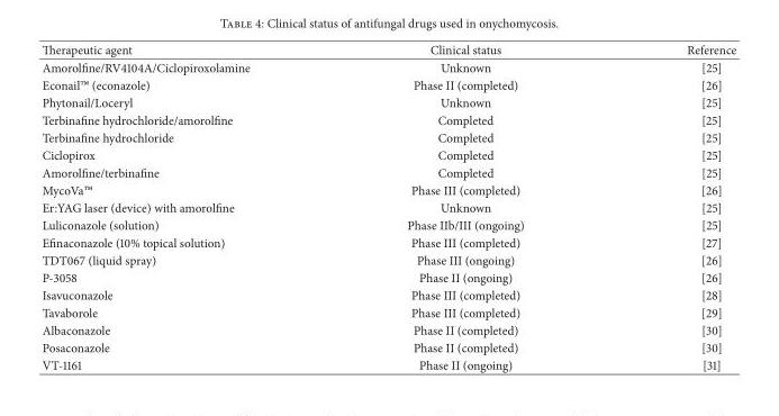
<table><thead><tr><td>Therapeutic agent</td><td>Clinical status</td><td>Reference</td></tr></thead><tbody><tr><td>Amorolfine/RV4104A/Ciclopiroxolamine</td><td>Unknown</td><td>[25]</td></tr><tr><td>Econail™ (econazole)</td><td>Phase II (completed)</td><td>[26]</td></tr><tr><td>Phytonail/Loceryl</td><td>Unknown</td><td>[25]</td></tr><tr><td>Terbinafine hydrochloride/amorolfine</td><td>Completed</td><td>[25]</td></tr><tr><td>Terbinafine hydrochloride</td><td>Completed</td><td>[25]</td></tr><tr><td>Ciclopirox</td><td>Completed</td><td>[25]</td></tr><tr><td>Amorolfine/terbinafine</td><td>Completed</td><td>[25]</td></tr><tr><td>MycoVa™</td><td>Phase III (completed)</td><td>[26]</td></tr><tr><td>Er:YAG laser (device) with amorolfine</td><td>Unknown</td><td>[25]</td></tr><tr><td>Luliconazole (solution)</td><td>Phase IIb/III (ongoing)</td><td>[25]</td></tr><tr><td>Efinaconazole (10% topical solution)</td><td>Phase III (completed)</td><td>[27]</td></tr><tr><td>TDT067 (liquid spray)</td><td>Phase III (ongoing)</td><td>[26]</td></tr><tr><td>P-3058</td><td>Phase II (ongoing)</td><td>[26]</td></tr><tr><td>Isavuconazole</td><td>Phase III (completed)</td><td>[28]</td></tr><tr><td>Tavaborole</td><td>Phase III (completed)</td><td>[29]</td></tr><tr><td>Albaconazole</td><td>Phase II (completed)</td><td>[30]</td></tr><tr><td>Posaconazole</td><td>Phase II (completed)</td><td>[30]</td></tr><tr><td>VT-1161</td><td>Phase II (ongoing)</td><td>[31]</td></tr></tbody></table>